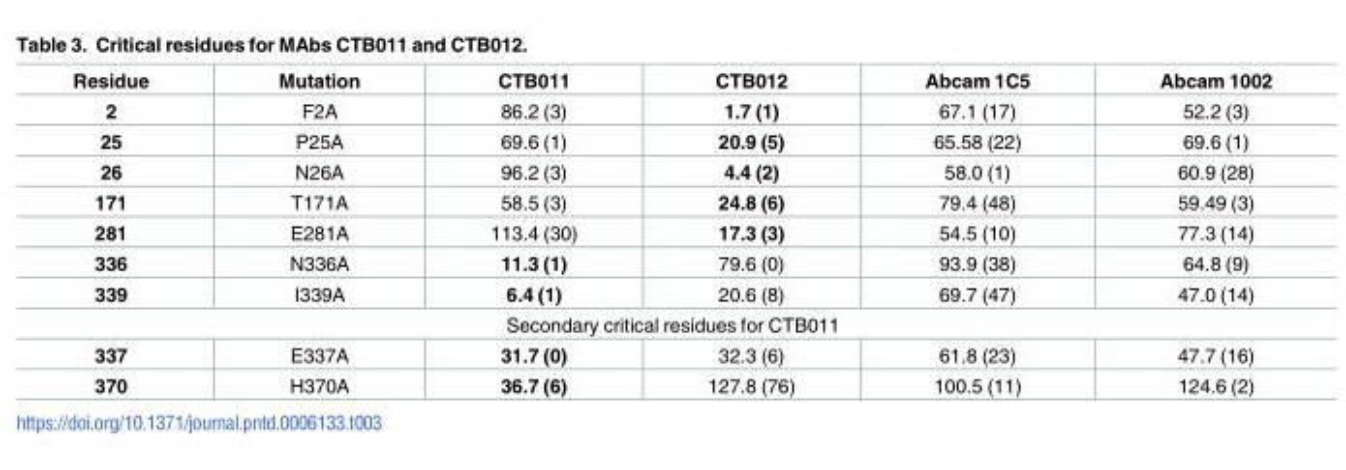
<table><thead><tr><td>Residue</td><td>Mutation</td><td>CTB011</td><td>CTB012</td><td>Abcam 1C5</td><td>Abcam 1002</td></tr></thead><tbody><tr><td>2</td><td>F2A</td><td>86.2 (3)</td><td>1.7 (1)</td><td>67.1 (17)</td><td>52.2 (3)</td></tr><tr><td>25</td><td>P25A</td><td>69.6 (1)</td><td>20.9 (5)</td><td>65.58 (22)</td><td>69.6 (1)</td></tr><tr><td>26</td><td>N26A</td><td>96.2 (3)</td><td>4.4 (2)</td><td>58.0 (1)</td><td>60.9 (28)</td></tr><tr><td>171</td><td>T171A</td><td>58.5 (3)</td><td>24.8 (6)</td><td>79.4 (48)</td><td>59.49 (3)</td></tr><tr><td>281</td><td>E281A</td><td>113.4 (30)</td><td>17.3 (3)</td><td>54.5 (10)</td><td>77.3 (14)</td></tr><tr><td>336</td><td>N336A</td><td>11.3 (1)</td><td>79.6 (0)</td><td>93.9 (38)</td><td>64.8 (9)</td></tr><tr><td>339</td><td>I339A</td><td>6.4 (1)</td><td>20.6 (8)</td><td>69.7 (47)</td><td>47.0 (14)</td></tr><tr><td colspan="6">Secondary critical residues for CTB011</td></tr><tr><td>337</td><td>E337A</td><td>31.7 (0)</td><td>32.3 (6)</td><td>61.8 (23)</td><td>47.7 (16)</td></tr><tr><td>370</td><td>H370A</td><td>36.7 (6)</td><td>127.8 (76)</td><td>100.5 (11)</td><td>124.6 (2)</td></tr></tbody></table>